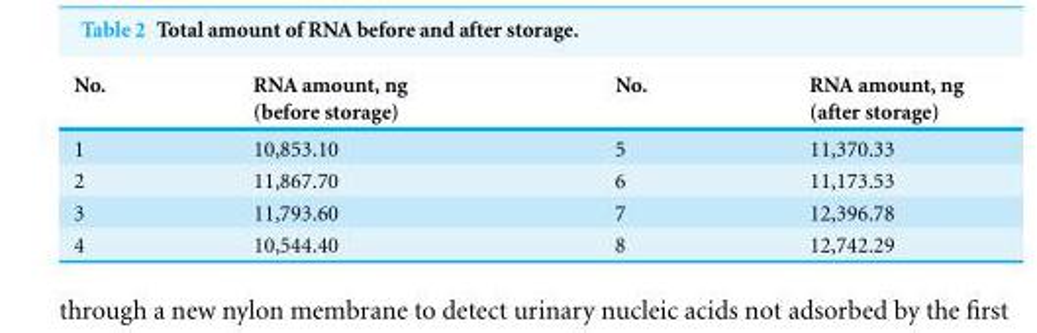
<table><thead><tr><td>No.</td><td>RNA amount, ng (before storage)</td><td>No.</td><td>RNA amount, ng (after storage)</td></tr></thead><tbody><tr><td>1</td><td>10,853.10</td><td>5</td><td>11,370.33</td></tr><tr><td>2</td><td>11,867.70</td><td>6</td><td>11,173.53</td></tr><tr><td>3</td><td>11,793.60</td><td>7</td><td>12,396.78</td></tr><tr><td>4</td><td>10,544.40</td><td>8</td><td>12,742.29</td></tr></tbody></table>